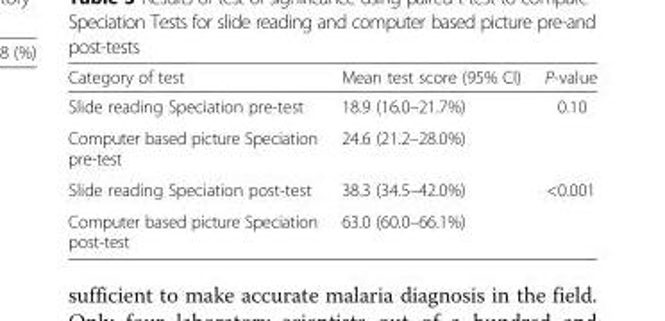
<table><thead><tr><td>Category of test</td><td>Mean test score (95% CI)</td><td>P-value</td></tr></thead><tbody><tr><td>Slide reading Speciation pre-test</td><td>18.9 (16.0–21.7%)</td><td rowspan="2">0.10</td></tr><tr><td>Computer based picture Speciation pre-test</td><td>24.6 (21.2–28.0%)</td></tr><tr><td>Slide reading Speciation post-test</td><td>38.3 (34.5–42.0%)</td><td rowspan="2">&lt;0.001</td></tr><tr><td>Computer based picture Speciation post-test</td><td>63.0 (60.0–66.1%)</td></tr></tbody></table>